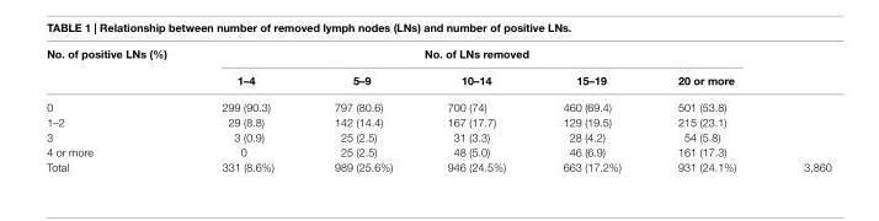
<table><thead><tr><td rowspan="2">no. of positive lns (%)</td><td colspan="5">no. of lns removed</td><td rowspan="2"></td></tr><tr><td>1–4</td><td>5–9</td><td>10–14</td><td>15–19</td><td>20 or more</td></tr></thead><tbody><tr><td>0</td><td>299 (90.3)</td><td>797 (80.6)</td><td>700 (74)</td><td>460 (69.4)</td><td>501 (53.8)</td><td></td></tr><tr><td>1–2</td><td>29 (8.8)</td><td>142 (14.4)</td><td>167 (17.7)</td><td>129 (19.5)</td><td>215 (23.1)</td><td></td></tr><tr><td>3</td><td>3 (0.9)</td><td>25 (2.5)</td><td>31 (3.3)</td><td>28 (4.2)</td><td>54 (5.8)</td><td></td></tr><tr><td>4 or more</td><td>0</td><td>25 (2.5)</td><td>48 (5.0)</td><td>46 (6.9)</td><td>161 (17.3)</td><td></td></tr><tr><td>Total</td><td>331 (8.6%)</td><td>989 (25.6%)</td><td>946 (24.5%)</td><td>663 (17.2%)</td><td>931 (24.1%)</td><td>3,860</td></tr></tbody></table>